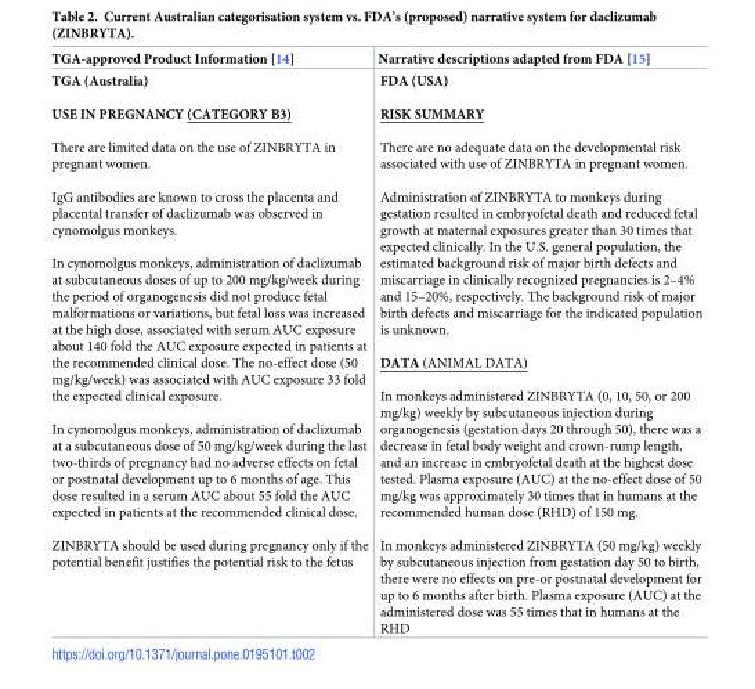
<table><thead><tr><td>TGA-approved Product Information [14]</td><td>Narrative descriptions adapted from FDA [15]</td></tr></thead><tbody><tr><td>TGA (Australia) USE IN PREGNANCY (CATEGORY B3) There are limited data on the use of ZINBRYTA in pregnant women. IgG antibodies are known to cross the placenta and placental transfer of daclizumab was observed in cynomolgus monkeys. In cynomolgus monkeys, administration of daclizumab at subcutaneous doses of up to 200 mg/kg/week during the period of organogenesis did not produce fetal malformations or variations, but fetal loss was increased at the high dose, associated with serum AUC exposure about 140 fold the AUC exposure expected in patients at the recommended clinical dose. The no-effect dose (50 mg/kg/week) was associated with AUC exposure 33 fold the expected clinical exposure. In cynomolgus monkeys, administration of daclizumab at a subcutaneous dose of 50 mg/kg/week during the last two-thirds of pregnancy had no adverse effects on fetal or postnatal development up to 6 months of age. This dose resulted in a serum AUC about 55 fold the AUC expected in patients at the recommended clinical dose. ZINBRYTA should be used during pregnancy only if the potential benefit justifies the potential risk to the fetus</td><td>FDA (USA) RISK SUMMARY There are no adequate data on the developmental risk associated with use of ZINBRYTA in pregnant women. Administration of ZINBRYTA to monkeys during gestation resulted in embryofetal death and reduced fetal growth at maternal exposures greater than 30 times that expected clinically. In the U.S. general population, the estimated background risk of major birth defects and miscarriage in clinically recognized pregnancies is 2–4% and 15–20%, respectively. The background risk of major birth defects and miscarriage for the indicated population is unknown. DATA (ANIMAL DATA) In monkeys administered ZINBRYTA (0, 10, 50, or 200 mg/kg) weekly by subcutaneous injection during organogenesis (gestation days 20 through 50), there was a decrease in fetal body weight and crown-rump length, and an increase in embryofetal death at the highest dose tested. Plasma exposure (AUC) at the no-effect dose of 50 mg/kg was approximately 30 times that in humans at the recommended human dose (RHD) of 150 mg. In monkeys administered ZINBRYTA (50 mg/kg) weekly by subcutaneous injection from gestation day 50 to birth, there were no effects on pre-or postnatal development for up to 6 months after birth. Plasma exposure (AUC) at the administered dose was 55 times that in humans at the RHD</td></tr></tbody></table>